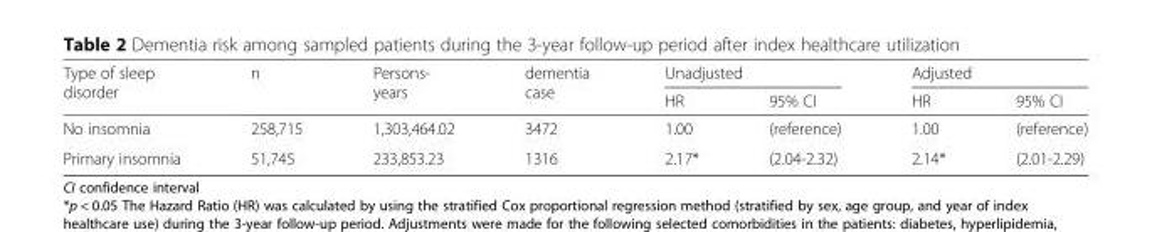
<table><thead><tr><td rowspan="2">Type of sleep disorder</td><td rowspan="2">n</td><td rowspan="2">Persons- years</td><td rowspan="2">dementia case</td><td colspan="2">Unadjusted</td><td colspan="2">Adjusted</td></tr><tr><td>HR</td><td>95% CI</td><td>HR</td><td>95% CI</td></tr></thead><tbody><tr><td>No insomnia</td><td>258,715</td><td>1,303,464.02</td><td>3472</td><td>1.00</td><td>(reference)</td><td>1.00</td><td>(reference)</td></tr><tr><td>Primary insomnia</td><td>51,745</td><td>233,853.23</td><td>1316</td><td>2.17*</td><td>(2.04-2.32)</td><td>2.14*</td><td>(2.01-2.29)</td></tr></tbody></table>